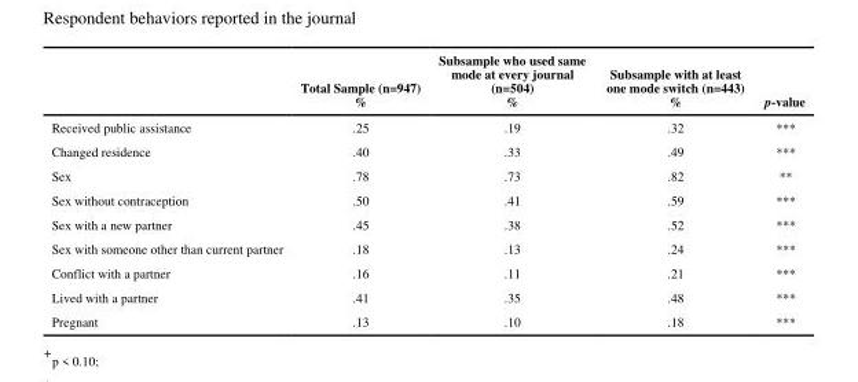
<table><thead><tr><td></td><td>Total Sample (n=947) %</td><td>Subsample who used same mode at every journal (n=504) %</td><td>Subsample with at least one mode switch (n=443) %</td><td>p-value</td></tr></thead><tbody><tr><td>Received public assistance</td><td>.25</td><td>.19</td><td>.32</td><td>***</td></tr><tr><td>Changed residence</td><td>.40</td><td>.33</td><td>.49</td><td>***</td></tr><tr><td>Sex</td><td>.78</td><td>.73</td><td>.82</td><td>**</td></tr><tr><td>Sex without contraception</td><td>.50</td><td>.41</td><td>.59</td><td>***</td></tr><tr><td>Sex with a new partner</td><td>.45</td><td>.38</td><td>.52</td><td>***</td></tr><tr><td>Sex with someone other than current partner</td><td>.18</td><td>.13</td><td>.24</td><td>***</td></tr><tr><td>Conflict with a partner</td><td>.16</td><td>.11</td><td>.21</td><td>***</td></tr><tr><td>Lived with a partner</td><td>.41</td><td>.35</td><td>.48</td><td>***</td></tr><tr><td>Pregnant</td><td>.13</td><td>.10</td><td>.18</td><td>***</td></tr></tbody></table>